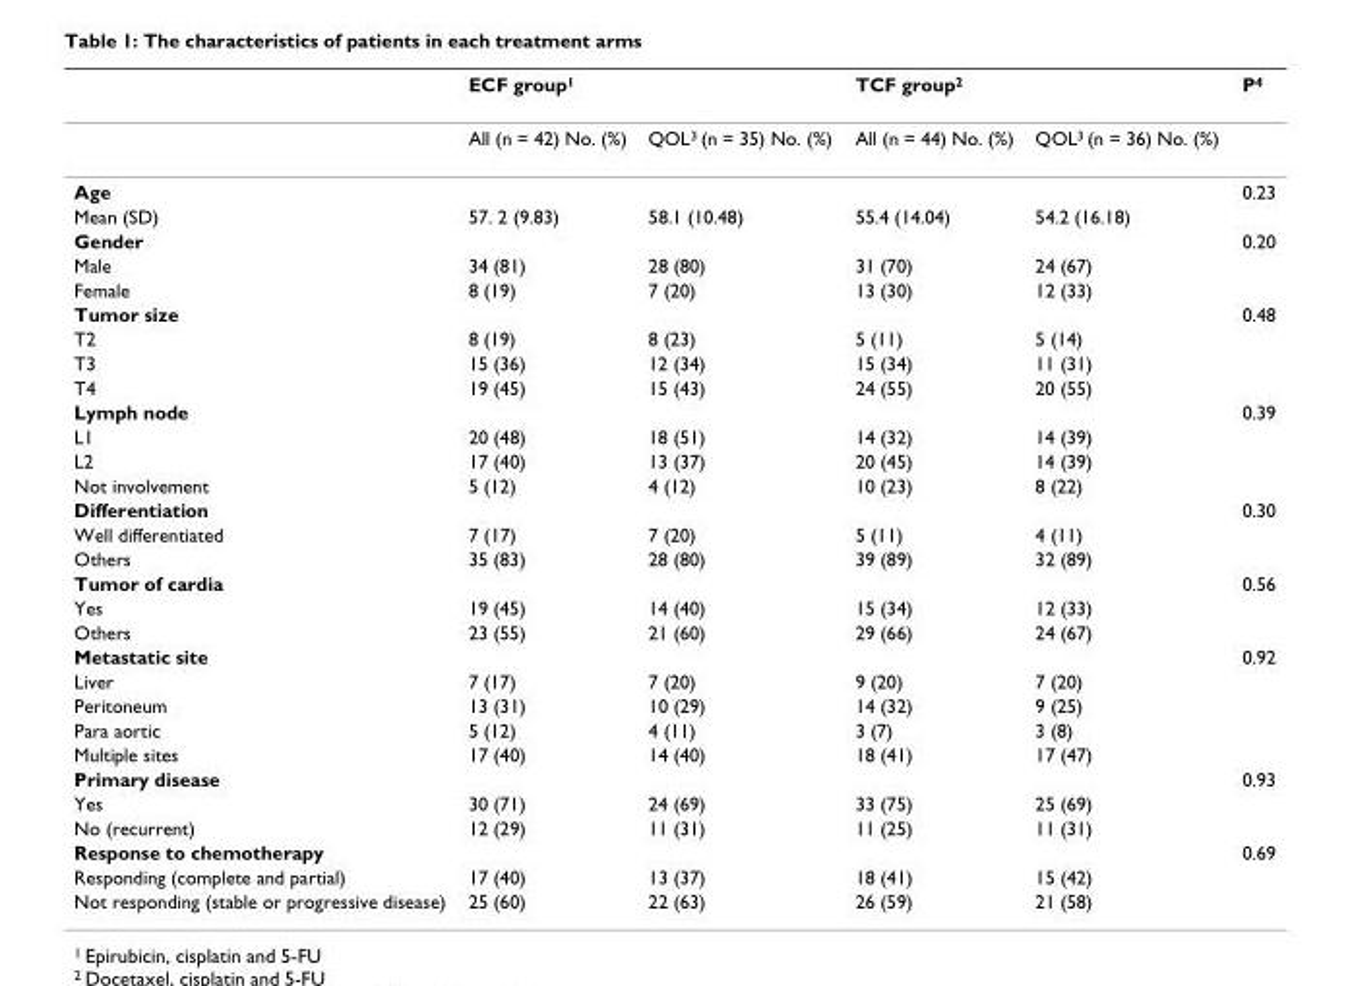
<table><thead><tr><td rowspan="2"></td><td colspan="2">ECF group1</td><td colspan="2">TCF group2</td><td rowspan="2">P4</td></tr><tr><td>All (n = 42) No. (%)</td><td>QOL3 (n = 35) No. (%)</td><td>All (n = 44) No. (%)</td><td>QOL3 (n = 36) No. (%)</td></tr></thead><tbody><tr><td>Age</td><td></td><td></td><td></td><td></td><td>0.23</td></tr><tr><td>Mean (SD)</td><td>57. 2 (9.83)</td><td>58.1 (10.48)</td><td>55.4 (14.04)</td><td>54.2 (16.18)</td><td></td></tr><tr><td>Gender</td><td></td><td></td><td></td><td></td><td>0.20</td></tr><tr><td>Male</td><td>34 (81)</td><td>28 (80)</td><td>31 (70)</td><td>24 (67)</td><td></td></tr><tr><td>Female</td><td>8 (19)</td><td>7 (20)</td><td>13 (30)</td><td>12 (33)</td><td></td></tr><tr><td>Tumor size</td><td></td><td></td><td></td><td></td><td>0.48</td></tr><tr><td>T2</td><td>8 (19)</td><td>8 (23)</td><td>5 (11)</td><td>5 (14)</td><td></td></tr><tr><td>T3</td><td>15 (36)</td><td>12 (34)</td><td>15 (34)</td><td>11 (31)</td><td></td></tr><tr><td>T4</td><td>19 (45)</td><td>15 (43)</td><td>24 (55)</td><td>20 (55)</td><td></td></tr><tr><td>Lymph node</td><td></td><td></td><td></td><td></td><td>0.39</td></tr><tr><td>L1</td><td>20 (48)</td><td>18 (51)</td><td>14 (32)</td><td>14 (39)</td><td></td></tr><tr><td>L2</td><td>17 (40)</td><td>13 (37)</td><td>20 (45)</td><td>14 (39)</td><td></td></tr><tr><td>Not involvement</td><td>5 (12)</td><td>4 (12)</td><td>10 (23)</td><td>8 (22)</td><td></td></tr><tr><td>Differentiation</td><td></td><td></td><td></td><td></td><td>0.30</td></tr><tr><td>Well differentiated</td><td>7 (17)</td><td>7 (20)</td><td>5 (11)</td><td>4 (11)</td><td></td></tr><tr><td>Others</td><td>35 (83)</td><td>28 (80)</td><td>39 (89)</td><td>32 (89)</td><td></td></tr><tr><td>Tumor of cardia</td><td></td><td></td><td></td><td></td><td>0.56</td></tr><tr><td>Yes</td><td>19 (45)</td><td>14 (40)</td><td>15 (34)</td><td>12 (33)</td><td></td></tr><tr><td>Others</td><td>23 (55)</td><td>21 (60)</td><td>29 (66)</td><td>24 (67)</td><td></td></tr><tr><td>Metastatic site</td><td></td><td></td><td></td><td></td><td>0.92</td></tr><tr><td>Liver</td><td>7 (17)</td><td>7 (20)</td><td>9 (20)</td><td>7 (20)</td><td></td></tr><tr><td>Peritoneum</td><td>13 (31)</td><td>10 (29)</td><td>14 (32)</td><td>9 (25)</td><td></td></tr><tr><td>Para aortic</td><td>5 (12)</td><td>4 (11)</td><td>3 (7)</td><td>3 (8)</td><td></td></tr><tr><td>Multiple sites</td><td>17 (40)</td><td>14 (40)</td><td>18 (41)</td><td>17 (47)</td><td></td></tr><tr><td>Primary disease</td><td></td><td></td><td></td><td></td><td>0.93</td></tr><tr><td>Yes</td><td>30 (71)</td><td>24 (69)</td><td>33 (75)</td><td>25 (69)</td><td></td></tr><tr><td>No (recurrent)</td><td>12 (29)</td><td>11 (31)</td><td>11 (25)</td><td>11 (31)</td><td></td></tr><tr><td>Response to chemotherapy</td><td></td><td></td><td></td><td></td><td>0.69</td></tr><tr><td>Responding (complete and partial)</td><td>17 (40)</td><td>13 (37)</td><td>18 (41)</td><td>15 (42)</td><td></td></tr><tr><td>Not responding (stable or progressive disease)</td><td>25 (60)</td><td>22 (63)</td><td>26 (59)</td><td>21 (58)</td><td></td></tr></tbody></table>